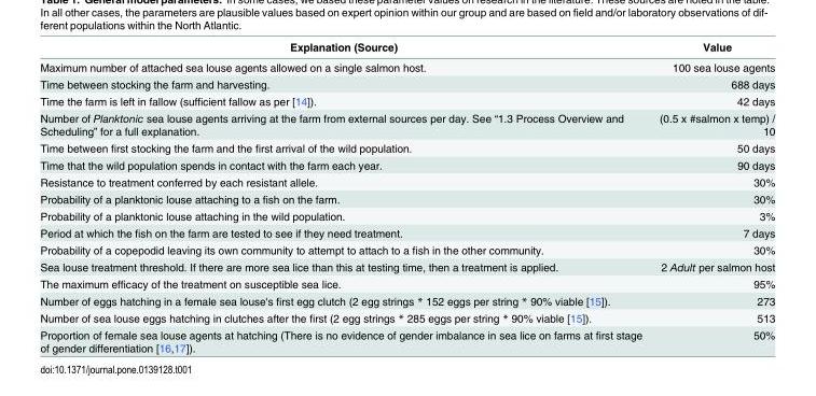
<table><thead><tr><td>Explanation (Source)</td><td>Value</td></tr></thead><tbody><tr><td>Maximum number of attached sea louse agents allowed on a single salmon host.</td><td>100 sea louse agents</td></tr><tr><td>Time between stocking the farm and harvesting.</td><td>688 days</td></tr><tr><td>Time the farm is left in fallow (sufficient fallow as per [14]).</td><td>42 days</td></tr><tr><td>Number of Planktonic sea louse agents arriving at the farm from external sources per day. See “1.3 Process Overview and Scheduling” for a full explanation.</td><td>(0.5 x #salmon x temp) / 10</td></tr><tr><td>Time between first stocking the farm and the first arrival of the wild population.</td><td>50 days</td></tr><tr><td>Time that the wild population spends in contact with the farm each year.</td><td>90 days</td></tr><tr><td>Resistance to treatment conferred by each resistant allele.</td><td>30%</td></tr><tr><td>Probability of a planktonic louse attaching to a fish on the farm.</td><td>30%</td></tr><tr><td>Probability of a planktonic louse attaching in the wild population.</td><td>3%</td></tr><tr><td>Period at which the fish on the farm are tested to see if they need treatment.</td><td>7 days</td></tr><tr><td>Probability of a copepodid leaving its own community to attempt to attach to a fish in the other community.</td><td>30%</td></tr><tr><td>Sea louse treatment threshold. If there are more sea lice than this at testing time, then a treatment is applied.</td><td>2 Adult per salmon host</td></tr><tr><td>The maximum efficacy of the treatment on susceptible sea lice.</td><td>95%</td></tr><tr><td>Number of eggs hatching in a female sea louse&#x27;s first egg clutch (2 egg strings * 152 eggs per string * 90% viable [15]).</td><td>273</td></tr><tr><td>Number of sea louse eggs hatching in clutches after the first (2 egg strings * 285 eggs per string * 90% viable [15]).</td><td>513</td></tr><tr><td>Proportion of female sea louse agents at hatching (There is no evidence of gender imbalance in sea lice on farms at first stage of gender differentiation [16,17]).</td><td>50%</td></tr></tbody></table>